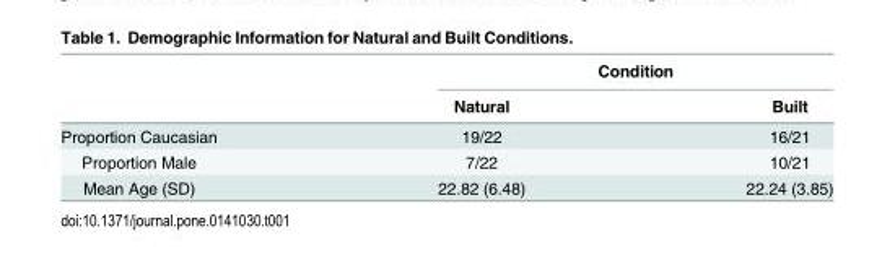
<table><thead><tr><td rowspan="2"></td><td colspan="2">Condition</td></tr><tr><td>Natural</td><td>Built</td></tr></thead><tbody><tr><td>Proportion Caucasian</td><td>19/22</td><td>16/21</td></tr><tr><td>Proportion Male</td><td>7/22</td><td>10/21</td></tr><tr><td>Mean Age (SD)</td><td>22.82 (6.48)</td><td>22.24 (3.85)</td></tr></tbody></table>